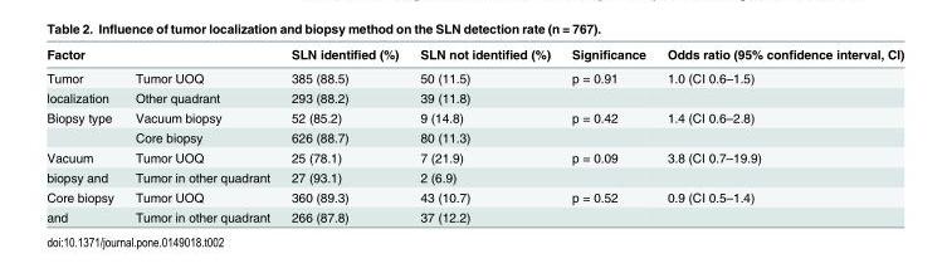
<table><thead><tr><td>Factor</td><td></td><td>SLN identified (%)</td><td>SLN not identified (%)</td><td>Significance</td><td>Odds ratio (95% confidence interval, CI)</td></tr></thead><tbody><tr><td>Tumor</td><td>Tumor UOQ</td><td>385 (88.5)</td><td>50 (11.5)</td><td>p = 0.91</td><td>1.0 (CI 0.6–1.5)</td></tr><tr><td>localization</td><td>Other quadrant</td><td>293 (88.2)</td><td>39 (11.8)</td><td></td><td></td></tr><tr><td rowspan="2">Biopsy type</td><td>Vacuum biopsy</td><td>52 (85.2)</td><td>9 (14.8)</td><td>p = 0.42</td><td>1.4 (CI 0.6–2.8)</td></tr><tr><td>Core biopsy</td><td>626 (88.7)</td><td>80 (11.3)</td><td></td><td></td></tr><tr><td>Vacuum</td><td>Tumor UOQ</td><td>25 (78.1)</td><td>7 (21.9)</td><td>p = 0.09</td><td>3.8 (CI 0.7–19.9)</td></tr><tr><td>biopsy and</td><td>Tumor in other quadrant</td><td>27 (93.1)</td><td>2 (6.9)</td><td></td><td></td></tr><tr><td>Core biopsy</td><td>Tumor UOQ</td><td>360 (89.3)</td><td>43 (10.7)</td><td>p = 0.52</td><td>0.9 (CI 0.5–1.4)</td></tr><tr><td>and</td><td>Tumor in other quadrant</td><td>266 (87.8)</td><td>37 (12.2)</td><td></td><td></td></tr></tbody></table>